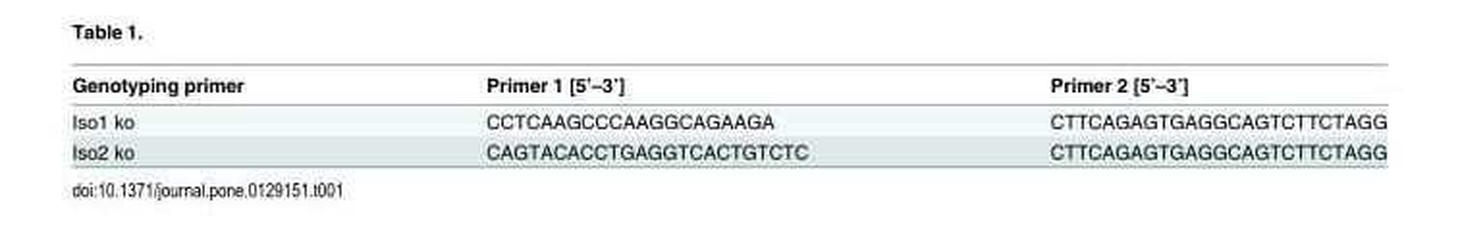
<table><thead><tr><td>Genotyping primer</td><td>Primer 1 [5’–3’]</td><td>Primer 2 [5’–3’]</td></tr></thead><tbody><tr><td>Iso1 ko</td><td>CCTCAAGCCCAAGGCAGAAGA</td><td>CTTCAGAGTGAGGCAGTCTTCTAGG</td></tr><tr><td>Iso2 ko</td><td>CAGTACACCTGAGGTCACTGTCTC</td><td>CTTCAGAGTGAGGCAGTCTTCTAGG</td></tr></tbody></table>